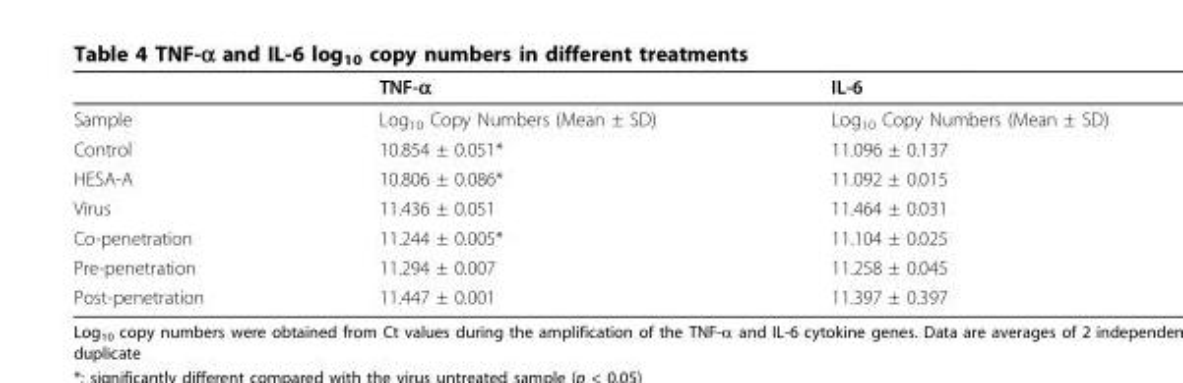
<table><thead><tr><td></td><td>TNF-α</td><td>IL-6</td></tr></thead><tbody><tr><td>Sample</td><td>Log<sub>10</sub> Copy Numbers (Mean ± SD)</td><td>Log<sub>10</sub> Copy Numbers (Mean ± SD)</td></tr><tr><td>Control</td><td>10.854 ± 0.051*</td><td>11.096 ± 0.137</td></tr><tr><td>HESA-A</td><td>10.806 ± 0.086*</td><td>11.092 ± 0.015</td></tr><tr><td>Virus</td><td>11.436 ± 0.051</td><td>11.464 ± 0.031</td></tr><tr><td>Co-penetration</td><td>11.244 ± 0.005*</td><td>11.104 ± 0.025</td></tr><tr><td>Pre-penetration</td><td>11.294 ± 0.007</td><td>11.258 ± 0.045</td></tr><tr><td>Post-penetration</td><td>11.447 ± 0.001</td><td>11.397 ± 0.397</td></tr></tbody></table>